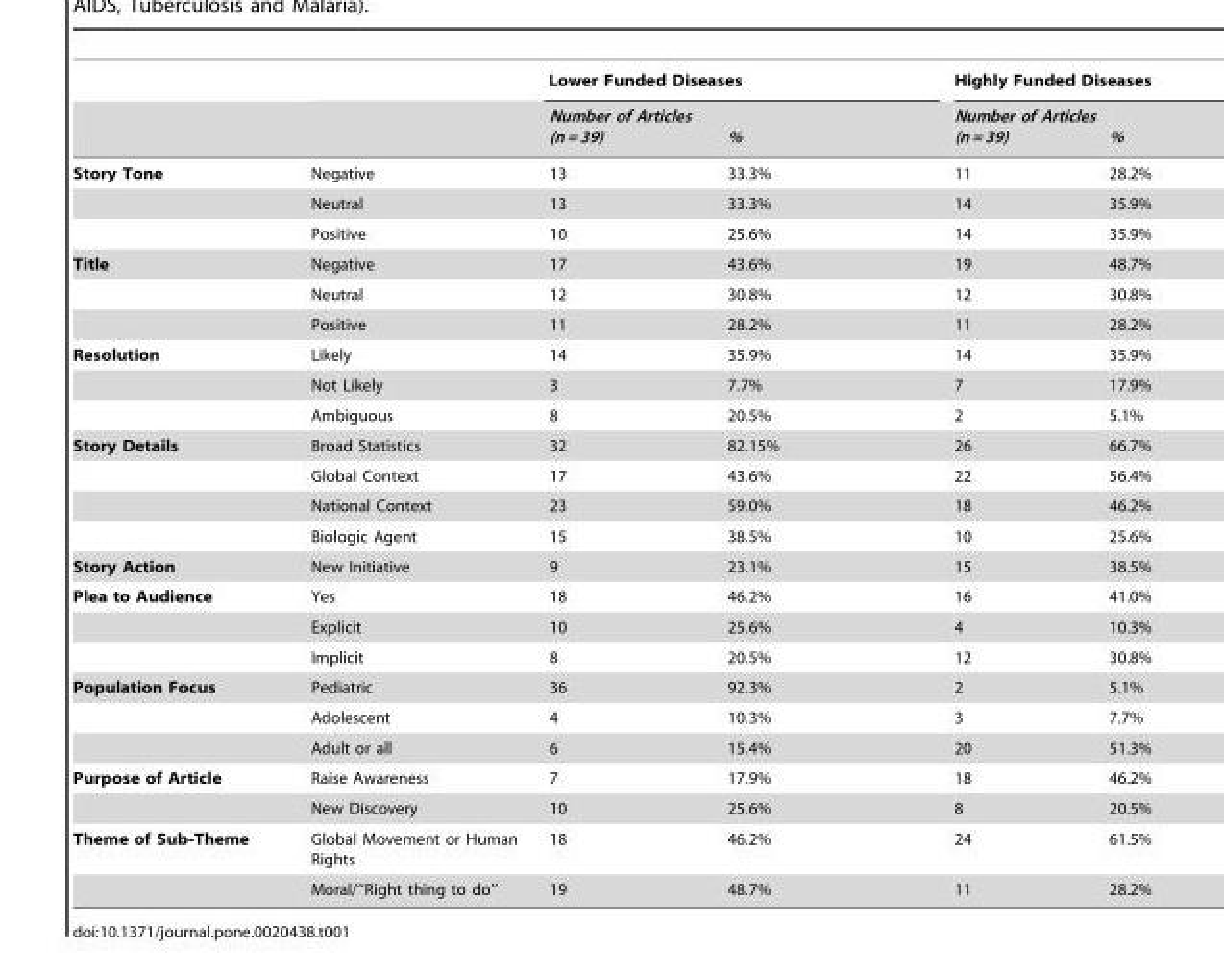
<table><thead><tr><td rowspan="2"></td><td colspan="3">Lower Funded Diseases</td><td colspan="2">Highly Funded Diseases</td></tr><tr><td></td><td>Number of Articles (n = 39)</td><td>%</td><td>Number of Articles (n = 39)</td><td>%</td></tr></thead><tbody><tr><td rowspan="3">Story Tone</td><td>Negative</td><td>13</td><td>33.3%</td><td>11</td><td>28.2%</td></tr><tr><td>Neutral</td><td>13</td><td>33.3%</td><td>14</td><td>35.9%</td></tr><tr><td>Positive</td><td>10</td><td>25.6%</td><td>14</td><td>35.9%</td></tr><tr><td rowspan="3">Title</td><td>Negative</td><td>17</td><td>43.6%</td><td>19</td><td>48.7%</td></tr><tr><td>Neutral</td><td>12</td><td>30.8%</td><td>12</td><td>30.8%</td></tr><tr><td>Positive</td><td>11</td><td>28.2%</td><td>11</td><td>28.2%</td></tr><tr><td rowspan="3">Resolution</td><td>Likely</td><td>14</td><td>35.9%</td><td>14</td><td>35.9%</td></tr><tr><td>Not Likely</td><td>3</td><td>7.7%</td><td>7</td><td>17.9%</td></tr><tr><td>Ambiguous</td><td>8</td><td>20.5%</td><td>2</td><td>5.1%</td></tr><tr><td rowspan="4">Story Details</td><td>Broad Statistics</td><td>32</td><td>82.15%</td><td>26</td><td>66.7%</td></tr><tr><td>Global Context</td><td>17</td><td>43.6%</td><td>22</td><td>56.4%</td></tr><tr><td>National Context</td><td>23</td><td>59.0%</td><td>18</td><td>46.2%</td></tr><tr><td>Biologic Agent</td><td>15</td><td>38.5%</td><td>10</td><td>25.6%</td></tr><tr><td>Story Action</td><td>New Initiative</td><td>9</td><td>23.1%</td><td>15</td><td>38.5%</td></tr><tr><td rowspan="3">Plea to Audience</td><td>Yes</td><td>18</td><td>46.2%</td><td>16</td><td>41.0%</td></tr><tr><td>Explicit</td><td>10</td><td>25.6%</td><td>4</td><td>10.3%</td></tr><tr><td>Implicit</td><td>8</td><td>20.5%</td><td>12</td><td>30.8%</td></tr><tr><td rowspan="3">Population Focus</td><td>Pediatric</td><td>36</td><td>92.3%</td><td>2</td><td>5.1%</td></tr><tr><td>Adolescent</td><td>4</td><td>10.3%</td><td>3</td><td>7.7%</td></tr><tr><td>Adult or all</td><td>6</td><td>15.4%</td><td>20</td><td>51.3%</td></tr><tr><td rowspan="2">Purpose of Article</td><td>Raise Awareness</td><td>7</td><td>17.9%</td><td>18</td><td>46.2%</td></tr><tr><td>New Discovery</td><td>10</td><td>25.6%</td><td>8</td><td>20.5%</td></tr><tr><td rowspan="2">Theme of Sub-Theme</td><td>Global Movement or Human Rights</td><td>18</td><td>46.2%</td><td>24</td><td>61.5%</td></tr><tr><td>Moral/‘‘Right thing to do’’</td><td>19</td><td>48.7%</td><td>11</td><td>28.2%</td></tr></tbody></table>